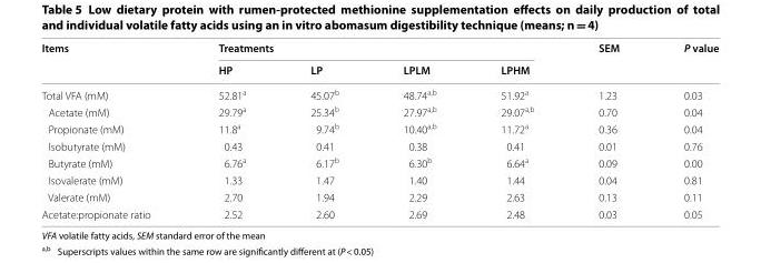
<table><thead><tr><td rowspan="2">Items</td><td colspan="4">Treatments</td><td rowspan="2">SEM</td><td rowspan="2">P value</td></tr><tr><td>HP</td><td>LP</td><td>LPLM</td><td>LPHM</td></tr></thead><tbody><tr><td>Total VFA (mM)</td><td>52.81<sup>a</sup></td><td>45.07<sup>b</sup></td><td>48.74<sup>a,b</sup></td><td>51.92<sup>a</sup></td><td>1.23</td><td>0.03</td></tr><tr><td>Acetate (mM)</td><td>29.79<sup>a</sup></td><td>25.34<sup>b</sup></td><td>27.97<sup>a,b</sup></td><td>29.07<sup>a,b</sup></td><td>0.70</td><td>0.04</td></tr><tr><td>Propionate (mM)</td><td>11.8<sup>a</sup></td><td>9.74<sup>b</sup></td><td>10.40<sup>a,b</sup></td><td>11.72<sup>a</sup></td><td>0.36</td><td>0.04</td></tr><tr><td>Isobutyrate (mM)</td><td>0.43</td><td>0.41</td><td>0.38</td><td>0.41</td><td>0.01</td><td>0.76</td></tr><tr><td>Butyrate (mM)</td><td>6.76<sup>a</sup></td><td>6.17<sup>b</sup></td><td>6.30<sup>b</sup></td><td>6.64<sup>a</sup></td><td>0.09</td><td>0.00</td></tr><tr><td>Isovalerate (mM)</td><td>1.33</td><td>1.47</td><td>1.40</td><td>1.44</td><td>0.04</td><td>0.81</td></tr><tr><td>Valerate (mM)</td><td>2.70</td><td>1.94</td><td>2.29</td><td>2.63</td><td>0.13</td><td>0.11</td></tr><tr><td>Acetate:propionate ratio</td><td>2.52</td><td>2.60</td><td>2.69</td><td>2.48</td><td>0.03</td><td>0.05</td></tr></tbody></table>